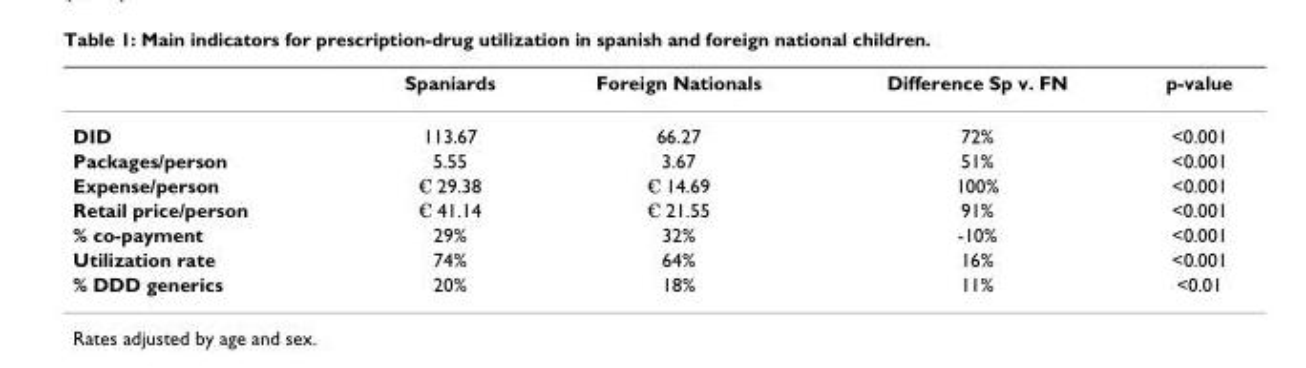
<table><thead><tr><td></td><td>Spaniards</td><td>Foreign Nationals</td><td>Difference Sp v. FN</td><td>p-value</td></tr></thead><tbody><tr><td>DID</td><td>113.67</td><td>66.27</td><td>72%</td><td>&lt;0.001</td></tr><tr><td>Packages/person</td><td>5.55</td><td>3.67</td><td>51%</td><td>&lt;0.001</td></tr><tr><td>Expense/person</td><td>€ 29.38</td><td>€ 14.69</td><td>100%</td><td>&lt;0.001</td></tr><tr><td>Retail price/person</td><td>€ 41.14</td><td>€ 21.55</td><td>91%</td><td>&lt;0.001</td></tr><tr><td>% co-payment</td><td>29%</td><td>32%</td><td>-10%</td><td>&lt;0.001</td></tr><tr><td>Utilization rate</td><td>74%</td><td>64%</td><td>16%</td><td>&lt;0.001</td></tr><tr><td>% DDD generics</td><td>20%</td><td>18%</td><td>11%</td><td>&lt;0.01</td></tr></tbody></table>